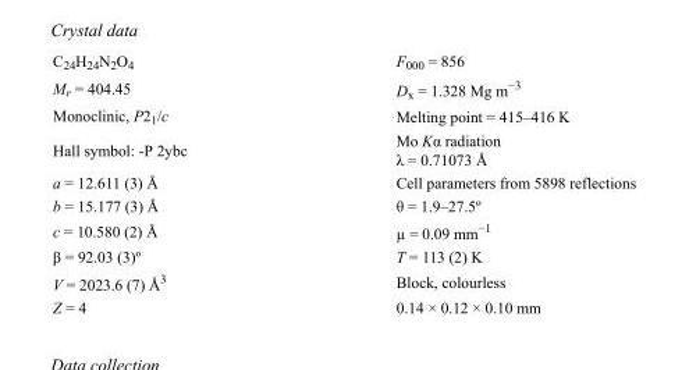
<table><tbody><tr><td>C<sub>24</sub>H<sub>24</sub>N<sub>2</sub>O<sub>4</sub></td><td>F<sub>000</sub> = 856</td></tr><tr><td>M<sub>r</sub> = 404.45</td><td>D<sub>x</sub> = 1.328 Mg m<sup>−3</sup></td></tr><tr><td>Monoclinic, P2<sub>1</sub>/c</td><td>Melting point = 415–416 K</td></tr><tr><td>Hall symbol: -P 2ybc</td><td>Mo Kα radiation λ = 0.71073 Å</td></tr><tr><td>a = 12.611 (3) Å</td><td>Cell parameters from 5898 reflections</td></tr><tr><td>b = 15.177 (3) Å</td><td>θ = 1.9–27.5º</td></tr><tr><td>c = 10.580 (2) Å</td><td>µ = 0.09 mm<sup>−1</sup></td></tr><tr><td>β = 92.03 (3)º</td><td>T = 113 (2) K</td></tr><tr><td>V = 2023.6 (7) Å<sup>3</sup></td><td>Block, colourless</td></tr><tr><td>Z = 4</td><td>0.14 × 0.12 × 0.10 mm</td></tr></tbody></table>